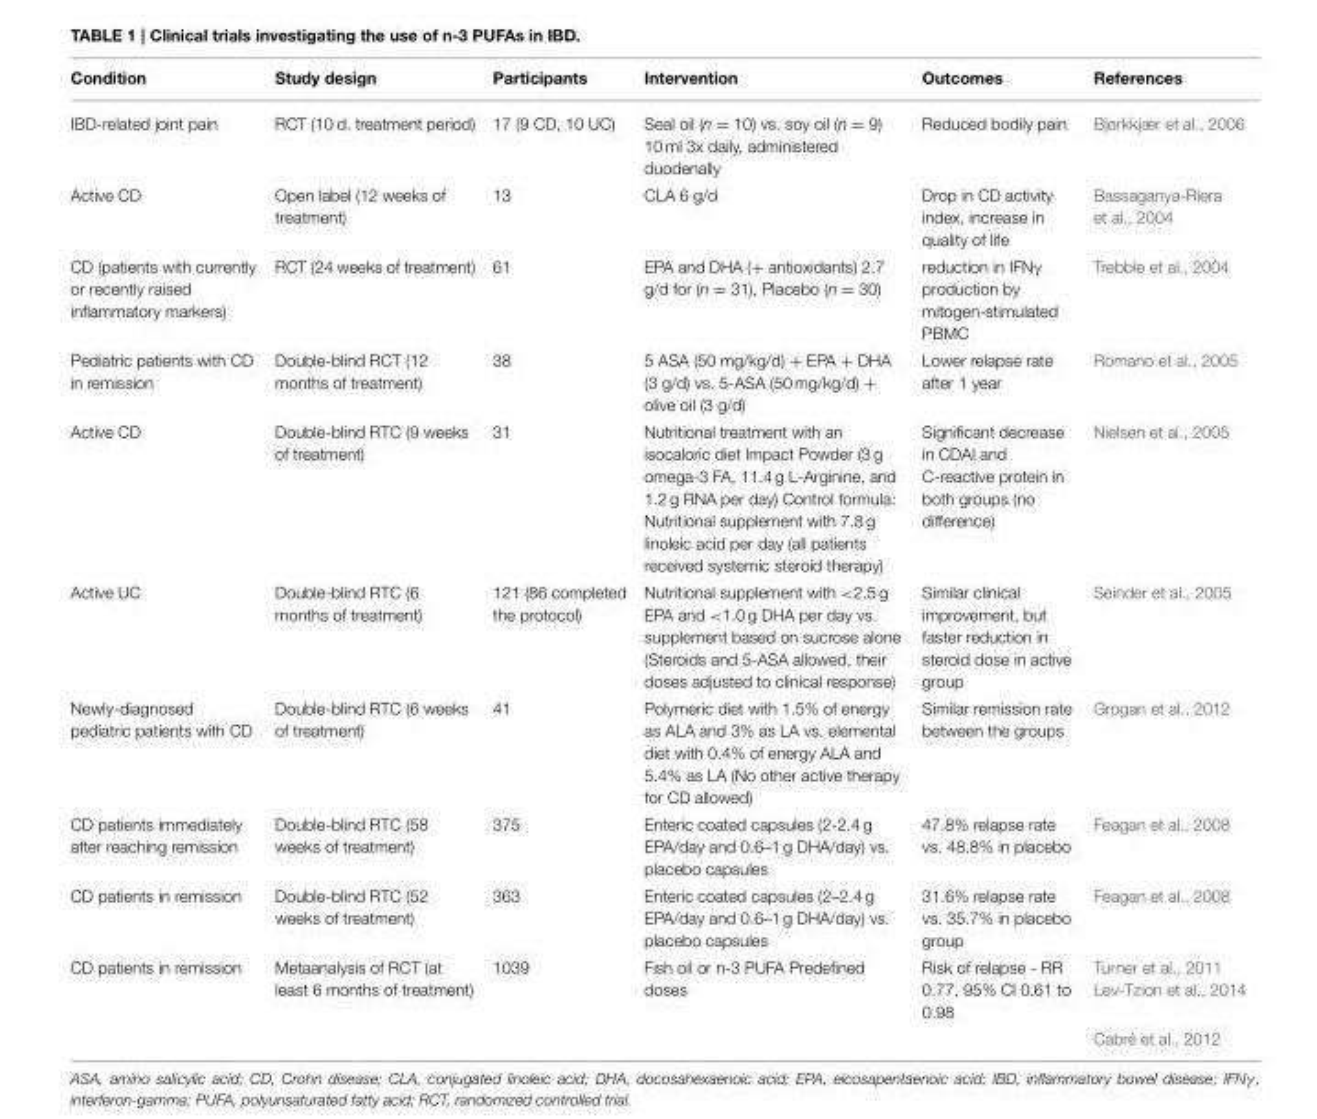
<table><thead><tr><td>Condition</td><td>Study design</td><td>Participants</td><td>Intervention</td><td>Outcomes</td><td>References</td></tr></thead><tbody><tr><td>IBD-related joint pain</td><td>RCT (10 d. treatment period)</td><td>17 (9 CD, 10 UC)</td><td>Seal oil (n = 10) vs. soy oil (n = 9) 10 ml 3x daily, administered duodenally</td><td>Reduced bodily pain</td><td>Bjørkkjær et al., 2006</td></tr><tr><td>Active CD</td><td>Open label (12 weeks of treatment)</td><td>13</td><td>CLA 6 g/d</td><td>Drop in CD activity index, increase in quality of life</td><td>Bassaganya-Riera et al., 2004</td></tr><tr><td>CD (patients with currently or recently raised inflammatory markers)</td><td>RCT (24 weeks of treatment)</td><td>61</td><td>EPA and DHA (+ antioxidants) 2.7 g/d for (n = 31), Placebo (n = 30)</td><td>reduction in IFNγ production by mitogen-stimulated PBMC</td><td>Trebble et al., 2004</td></tr><tr><td>Pediatric patients with CD in remission</td><td>Double-blind RCT (12 months of treatment)</td><td>38</td><td>5 ASA (50 mg/kg/d) + EPA + DHA (3 g/d) vs. 5-ASA (50 mg/kg/d) + olive oil (3 g/d)</td><td>Lower relapse rate after 1 year</td><td>Romano et al., 2005</td></tr><tr><td>Active CD</td><td>Double-blind RTC (9 weeks of treatment)</td><td>31</td><td>Nutritional treatment with an isocaloric diet Impact Powder (3 g omega-3 FA, 11.4 g L-Arginine, and 1.2 g RNA per day) Control formula: Nutritional supplement with 7.8 g linoleic acid per day (all patients received systemic steroid therapy)</td><td>Significant decrease in CDAI and C-reactive protein in both groups (no difference)</td><td>Nielsen et al., 2005</td></tr><tr><td>Active UC</td><td>Double-blind RTC (6 months of treatment)</td><td>121 (86 completed the protocol)</td><td>Nutritional supplement with &lt;2.5 g EPA and &lt;1.0 g DHA per day vs. supplement based on sucrose alone (Steroids and 5-ASA allowed, their doses adjusted to clinical response)</td><td>Similar clinical improvement, but faster reduction in steroid dose in active group</td><td>Seinder et al., 2005</td></tr><tr><td>Newly-diagnosed pediatric patients with CD</td><td>Double-blind RTC (6 weeks of treatment)</td><td>41</td><td>Polymeric diet with 1.5% of energy as ALA and 3% as LA vs. elemental diet with 0.4% of energy ALA and 5.4% as LA (No other active therapy for CD allowed)</td><td>Similar remission rate between the groups</td><td>Grogan et al., 2012</td></tr><tr><td>CD patients immediately after reaching remission</td><td>Double-blind RTC (58 weeks of treatment)</td><td>375</td><td>Enteric coated capsules (2-2.4 g EPA/day and 0.6–1 g DHA/day) vs. placebo capsules</td><td>47.8% relapse rate vs. 48.8% in placebo</td><td>Feagan et al., 2008</td></tr><tr><td>CD patients in remission</td><td>Double-blind RTC (52 weeks of treatment)</td><td>363</td><td>Enteric coated capsules (2–2.4 g EPA/day and 0.6–1 g DHA/day) vs. placebo capsules</td><td>31.6% relapse rate vs. 35.7% in placebo group</td><td>Feagan et al., 2008</td></tr><tr><td rowspan="2">CD patients in remission</td><td>Metaanalysis of RCT (at least 6 months of treatment)</td><td>1039</td><td>Fish oil or n-3 PUFA Predefined doses</td><td>Risk of relapse - RR 0.77, 95% CI 0.61 to 0.98</td><td>Turner et al., 2011 Lev-Tzion et al., 2014</td></tr><tr><td></td><td></td><td></td><td></td><td>Cabré et al., 2012</td></tr></tbody></table>